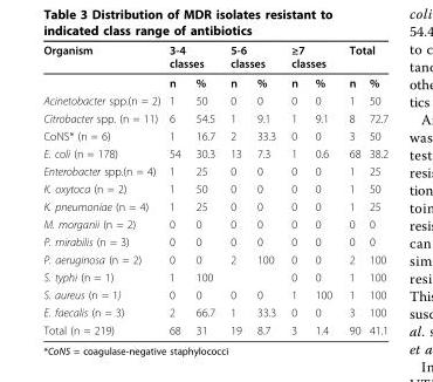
<table><thead><tr><td rowspan="2">Organism</td><td colspan="2">3-4 classes</td><td colspan="2">5-6 classes</td><td colspan="2">≥7 classes</td><td colspan="2">Total</td></tr><tr><td>n</td><td>%</td><td>n</td><td>%</td><td>n</td><td>%</td><td>n</td><td>%</td></tr></thead><tbody><tr><td>Acinetobacter spp.(n = 2)</td><td>1</td><td>50</td><td>0</td><td>0</td><td>0</td><td>0</td><td>1</td><td>50</td></tr><tr><td>Citrobacter spp. (n = 11)</td><td>6</td><td>54.5</td><td>1</td><td>9.1</td><td>1</td><td>9.1</td><td>8</td><td>72.7</td></tr><tr><td>CoNS* (n = 6)</td><td>1</td><td>16.7</td><td>2</td><td>33.3</td><td>0</td><td>0</td><td>3</td><td>50</td></tr><tr><td>E. coli (n = 178)</td><td>54</td><td>30.3</td><td>13</td><td>7.3</td><td>1</td><td>0.6</td><td>68</td><td>38.2</td></tr><tr><td>Enterobacter spp.(n = 4)</td><td>1</td><td>25</td><td>0</td><td>0</td><td>0</td><td>0</td><td>1</td><td>25</td></tr><tr><td>K. oxytoca (n = 2)</td><td>1</td><td>50</td><td>0</td><td>0</td><td>0</td><td>0</td><td>1</td><td>50</td></tr><tr><td>K. pneumoniae (n = 4)</td><td>1</td><td>25</td><td>0</td><td>0</td><td>0</td><td>0</td><td>1</td><td>25</td></tr><tr><td>M. morganii (n = 2)</td><td>0</td><td>0</td><td>0</td><td>0</td><td>0</td><td>0</td><td>0</td><td>0</td></tr><tr><td>P. mirabilis (n = 3)</td><td>0</td><td>0</td><td>0</td><td>0</td><td>0</td><td>0</td><td>0</td><td>0</td></tr><tr><td>P. aeruginosa (n = 2)</td><td>0</td><td>0</td><td>2</td><td>100</td><td>0</td><td>0</td><td>2</td><td>100</td></tr><tr><td>S. typhi (n = 1)</td><td>1</td><td>100</td><td></td><td></td><td>0</td><td>0</td><td>1</td><td>100</td></tr><tr><td>S. aureus (n = 1)</td><td>0</td><td>0</td><td>0</td><td>0</td><td>1</td><td>100</td><td>1</td><td>100</td></tr><tr><td>E. faecalis (n = 3)</td><td>2</td><td>66.7</td><td>1</td><td>33.3</td><td>0</td><td>0</td><td>3</td><td>100</td></tr><tr><td>Total (n = 219)</td><td>68</td><td>31</td><td>19</td><td>8.7</td><td>3</td><td>1.4</td><td>90</td><td>41.1</td></tr></tbody></table>